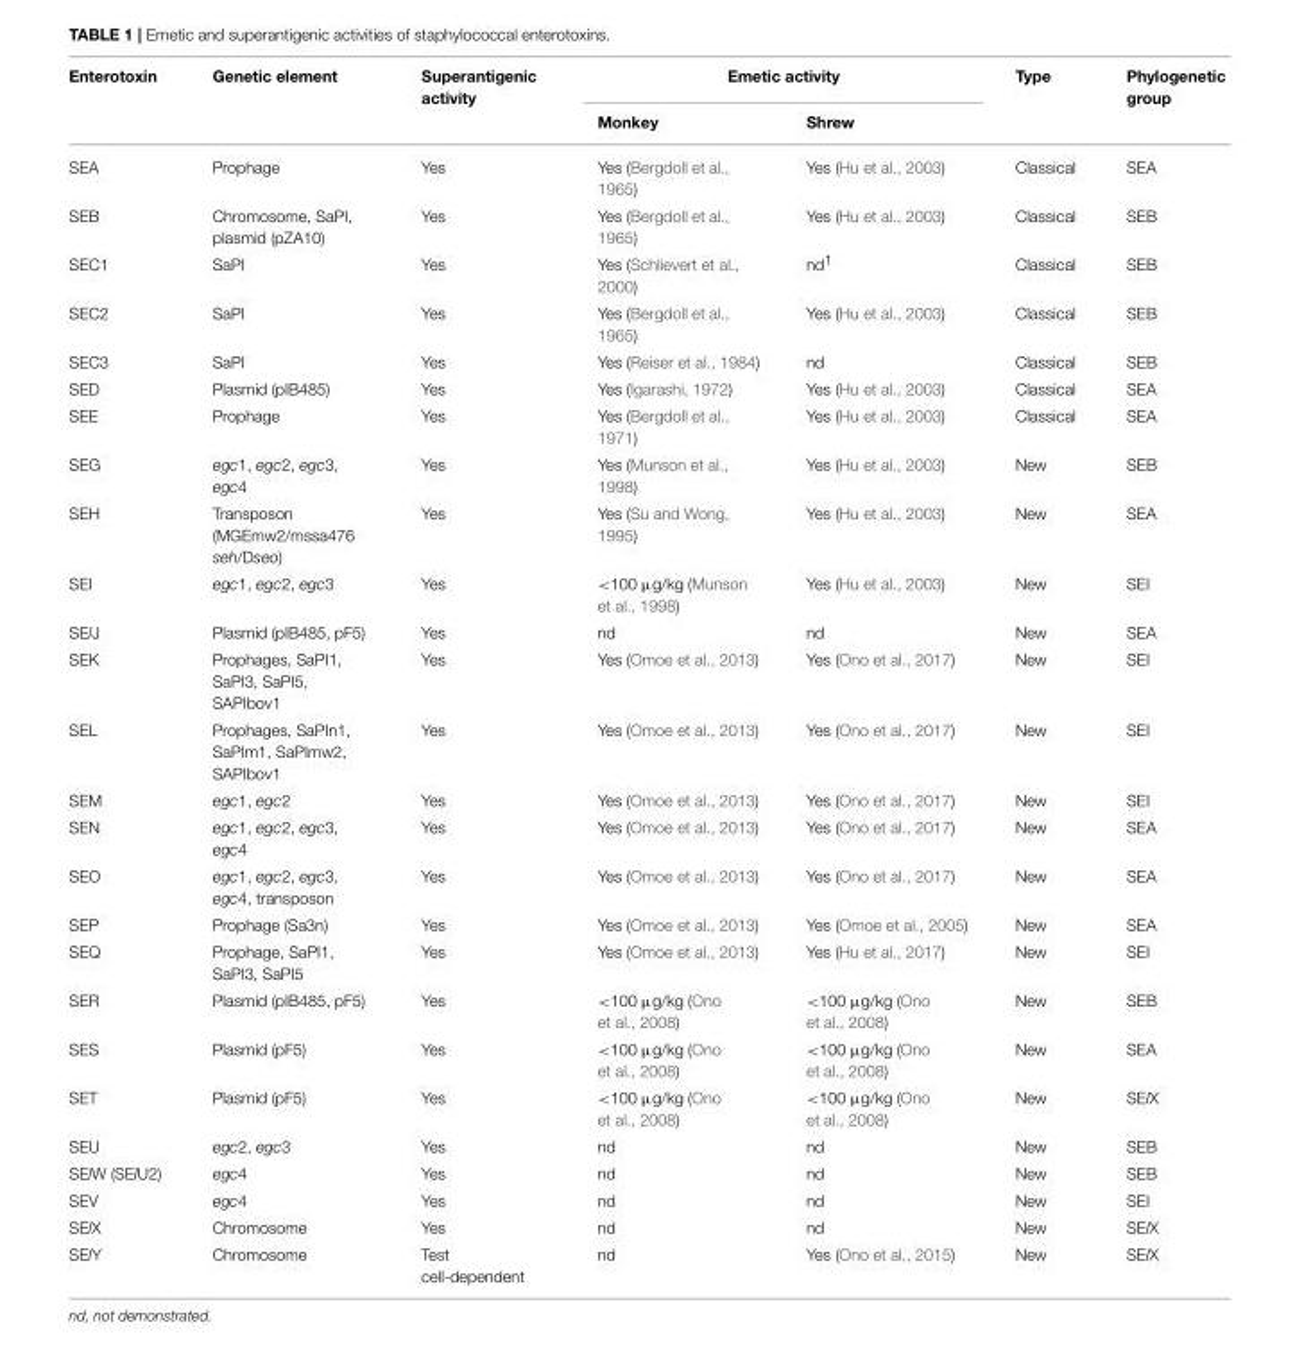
<table><thead><tr><td rowspan="2">Enterotoxin</td><td rowspan="2">Genetic element</td><td rowspan="2">Superantigenic activity</td><td colspan="2">Emetic activity</td><td rowspan="2">Type</td><td rowspan="2">Phylogenetic group</td></tr><tr><td>Monkey</td><td>Shrew</td></tr></thead><tbody><tr><td>SEA</td><td>Prophage</td><td>Yes</td><td>Yes (Bergdoll et al., 1965)</td><td>Yes (Hu et al., 2003)</td><td>Classical</td><td>SEA</td></tr><tr><td>SEB</td><td>Chromosome, SaPI, plasmid (pZA10)</td><td>Yes</td><td>Yes (Bergdoll et al., 1965)</td><td>Yes (Hu et al., 2003)</td><td>Classical</td><td>SEB</td></tr><tr><td>SEC1</td><td>SaPI</td><td>Yes</td><td>Yes (Schlievert et al., 2000)</td><td>nd<sup>1</sup></td><td>Classical</td><td>SEB</td></tr><tr><td>SEC2</td><td>SaPI</td><td>Yes</td><td>Yes (Bergdoll et al., 1965)</td><td>Yes (Hu et al., 2003)</td><td>Classical</td><td>SEB</td></tr><tr><td>SEC3</td><td>SaPI</td><td>Yes</td><td>Yes (Reiser et al., 1984)</td><td>nd</td><td>Classical</td><td>SEB</td></tr><tr><td>SED</td><td>Plasmid (pIB485)</td><td>Yes</td><td>Yes (Igarashi, 1972)</td><td>Yes (Hu et al., 2003)</td><td>Classical</td><td>SEA</td></tr><tr><td>SEE</td><td>Prophage</td><td>Yes</td><td>Yes (Bergdoll et al., 1971)</td><td>Yes (Hu et al., 2003)</td><td>Classical</td><td>SEA</td></tr><tr><td>SEG</td><td>egc1, egc2, egc3, egc4</td><td>Yes</td><td>Yes (Munson et al., 1998)</td><td>Yes (Hu et al., 2003)</td><td>New</td><td>SEB</td></tr><tr><td>SEH</td><td>Transposon (MGEmw2/mssa476 seh/Dseo)</td><td>Yes</td><td>Yes (Su and Wong, 1995)</td><td>Yes (Hu et al., 2003)</td><td>New</td><td>SEA</td></tr><tr><td>SEI</td><td>egc1, egc2, egc3</td><td>Yes</td><td>&lt;100 µg/kg (Munson et al., 1998)</td><td>Yes (Hu et al., 2003)</td><td>New</td><td>SEI</td></tr><tr><td>SElJ</td><td>Plasmid (pIB485, pF5)</td><td>Yes</td><td>nd</td><td>nd</td><td>New</td><td>SEA</td></tr><tr><td>SEK</td><td>Prophages, SaPI1, SaPI3, SaPI5, SAPIbov1</td><td>Yes</td><td>Yes (Omoe et al., 2013)</td><td>Yes (Ono et al., 2017)</td><td>New</td><td>SEI</td></tr><tr><td>SEL</td><td>Prophages, SaPIn1, SaPIm1, SaPImw2, SAPIbov1</td><td>Yes</td><td>Yes (Omoe et al., 2013)</td><td>Yes (Ono et al., 2017)</td><td>New</td><td>SEI</td></tr><tr><td>SEM</td><td>egc1, egc2</td><td>Yes</td><td>Yes (Omoe et al., 2013)</td><td>Yes (Ono et al., 2017)</td><td>New</td><td>SEI</td></tr><tr><td>SEN</td><td>egc1, egc2, egc3, egc4</td><td>Yes</td><td>Yes (Omoe et al., 2013)</td><td>Yes (Ono et al., 2017)</td><td>New</td><td>SEA</td></tr><tr><td>SEO</td><td>egc1, egc2, egc3, egc4, transposon</td><td>Yes</td><td>Yes (Omoe et al., 2013)</td><td>Yes (Ono et al., 2017)</td><td>New</td><td>SEA</td></tr><tr><td>SEP</td><td>Prophage (Sa3n)</td><td>Yes</td><td>Yes (Omoe et al., 2013)</td><td>Yes (Omoe et al., 2005)</td><td>New</td><td>SEA</td></tr><tr><td>SEQ</td><td>Prophage, SaPI1, SaPI3, SaPI5</td><td>Yes</td><td>Yes (Omoe et al., 2013)</td><td>Yes (Hu et al., 2017)</td><td>New</td><td>SEI</td></tr><tr><td>SER</td><td>Plasmid (pIB485, pF5)</td><td>Yes</td><td>&lt;100 µg/kg (Ono et al., 2008)</td><td>&lt;100 µg/kg (Ono et al., 2008)</td><td>New</td><td>SEB</td></tr><tr><td>SES</td><td>Plasmid (pF5)</td><td>Yes</td><td>&lt;100 µg/kg (Ono et al., 2008)</td><td>&lt;100 µg/kg (Ono et al., 2008)</td><td>New</td><td>SEA</td></tr><tr><td>SET</td><td>Plasmid (pF5)</td><td>Yes</td><td>&lt;100 µg/kg (Ono et al., 2008)</td><td>&lt;100 µg/kg (Ono et al., 2008)</td><td>New</td><td>SElX</td></tr><tr><td>SEU</td><td>egc2, egc3</td><td>Yes</td><td>nd</td><td>nd</td><td>New</td><td>SEB</td></tr><tr><td>SElW (SElU2)</td><td>egc4</td><td>Yes</td><td>nd</td><td>nd</td><td>New</td><td>SEB</td></tr><tr><td>SEV</td><td>egc4</td><td>Yes</td><td>nd</td><td>nd</td><td>New</td><td>SEI</td></tr><tr><td>SElX</td><td>Chromosome</td><td>Yes</td><td>nd</td><td>nd</td><td>New</td><td>SElX</td></tr><tr><td>SElY</td><td>Chromosome</td><td>Test cell-dependent</td><td>nd</td><td>Yes (Ono et al., 2015)</td><td>New</td><td>SElX</td></tr></tbody></table>